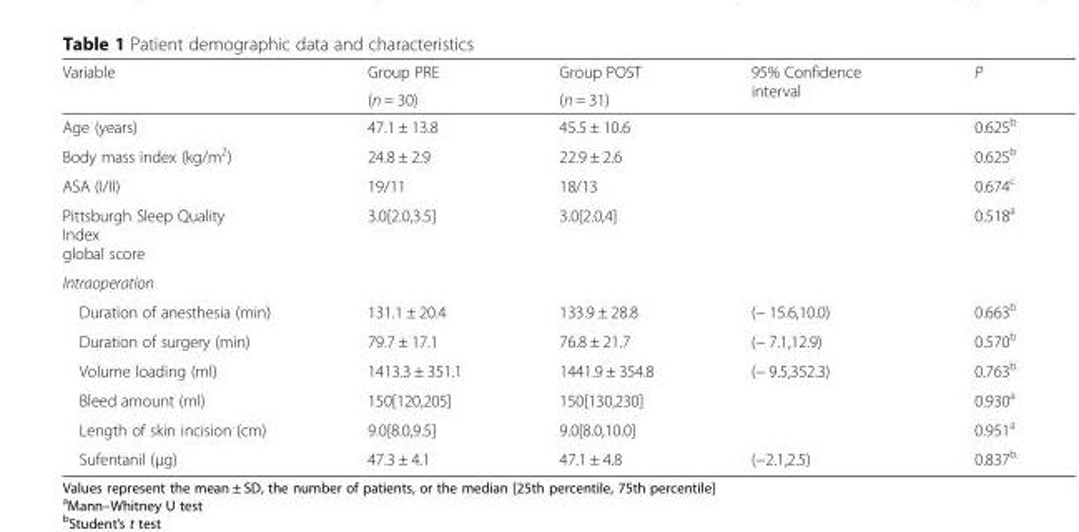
<table><thead><tr><td rowspan="2">Variable</td><td rowspan="2">Group PRE (n = 30)</td><td rowspan="2">Group POST (n = 31)</td><td rowspan="2">95% Confidence interval</td><td rowspan="2">P</td></tr><tr></tr></thead><tbody><tr><td>Age (years)</td><td>47.1 ± 13.8</td><td>45.5 ± 10.6</td><td></td><td>0.625b</td></tr><tr><td>Body mass index (kg/m2)</td><td>24.8 ± 2.9</td><td>22.9 ± 2.6</td><td></td><td>0.625b</td></tr><tr><td>ASA (I/II)</td><td>19/11</td><td>18/13</td><td></td><td>0.674c</td></tr><tr><td>Pittsburgh Sleep Quality Index global score</td><td>3.0[2.0,3.5]</td><td>3.0[2.0,4]</td><td></td><td>0.518a</td></tr><tr><td colspan="5">Intraoperation</td></tr><tr><td>Duration of anesthesia (min)</td><td>131.1 ± 20.4</td><td>133.9 ± 28.8</td><td>(− 15.6,10.0)</td><td>0.663b</td></tr><tr><td>Duration of surgery (min)</td><td>79.7 ± 17.1</td><td>76.8 ± 21.7</td><td>(− 7.1,12.9)</td><td>0.570b</td></tr><tr><td>Volume loading (ml)</td><td>1413.3 ± 351.1</td><td>1441.9 ± 354.8</td><td>(− 9.5,352.3)</td><td>0.763b</td></tr><tr><td>Bleed amount (ml)</td><td>150[120,205]</td><td>150[130,230]</td><td></td><td>0.930a</td></tr><tr><td>Length of skin incision (cm)</td><td>9.0[8.0,9.5]</td><td>9.0[8.0,10.0]</td><td></td><td>0.951a</td></tr><tr><td>Sufentanil (μg)</td><td>47.3 ± 4.1</td><td>47.1 ± 4.8</td><td>(−2.1,2.5)</td><td>0.837b</td></tr></tbody></table>